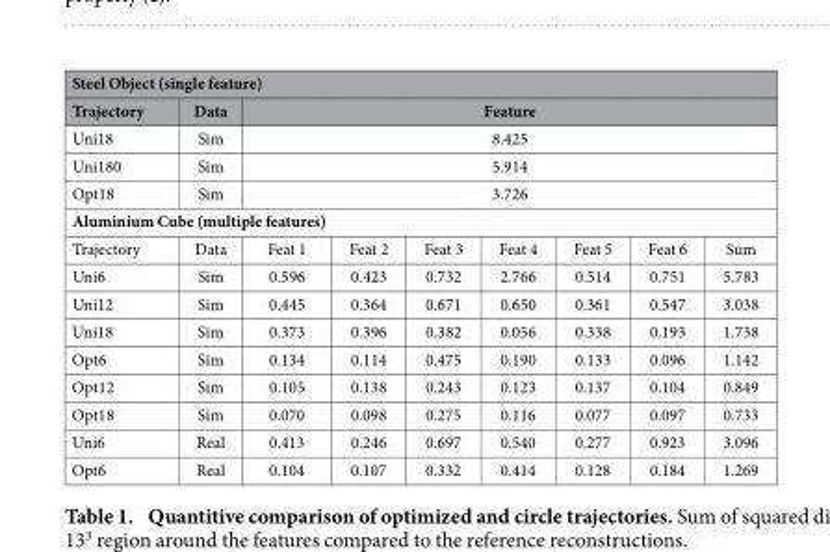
<table><thead><tr><td colspan="9">Steel Object (single feature)</td></tr></thead><tbody><tr><td>Trajectory</td><td>Data</td><td colspan="7">Feature</td></tr><tr><td>Uni18</td><td>Sim</td><td colspan="7">8.425</td></tr><tr><td>Uni180</td><td>Sim</td><td colspan="7">5.914</td></tr><tr><td>Opt18</td><td>Sim</td><td colspan="7">3.726</td></tr><tr><td colspan="9">Aluminium Cube (multiple features)</td></tr><tr><td>Trajectory</td><td>Data</td><td>Feat 1</td><td>Feat 2</td><td>Feat 3</td><td>Feat 4</td><td>Feat 5</td><td>Feat 6</td><td>Sum</td></tr><tr><td>Uni6</td><td>Sim</td><td>0.596</td><td>0.423</td><td>0.732</td><td>2.766</td><td>0.514</td><td>0.751</td><td>5.783</td></tr><tr><td>Uni12</td><td>Sim</td><td>0.445</td><td>0.364</td><td>0.671</td><td>0.650</td><td>0.361</td><td>0.547</td><td>3.038</td></tr><tr><td>Uni18</td><td>Sim</td><td>0.373</td><td>0.396</td><td>0.382</td><td>0.056</td><td>0.338</td><td>0.193</td><td>1.738</td></tr><tr><td>Opt6</td><td>Sim</td><td>0.134</td><td>0.114</td><td>0.475</td><td>0.190</td><td>0.133</td><td>0.096</td><td>1.142</td></tr><tr><td>Opt12</td><td>Sim</td><td>0.105</td><td>0.138</td><td>0.243</td><td>0.123</td><td>0.137</td><td>0.104</td><td>0.849</td></tr><tr><td>Opt18</td><td>Sim</td><td>0.070</td><td>0.098</td><td>0.275</td><td>0.116</td><td>0.077</td><td>0.097</td><td>0.733</td></tr><tr><td>Uni6</td><td>Real</td><td>0.413</td><td>0.246</td><td>0.697</td><td>0.540</td><td>0.277</td><td>0.923</td><td>3.096</td></tr><tr><td>Opt6</td><td>Real</td><td>0.104</td><td>0.107</td><td>0.332</td><td>0.414</td><td>0.128</td><td>0.184</td><td>1.269</td></tr></tbody></table>